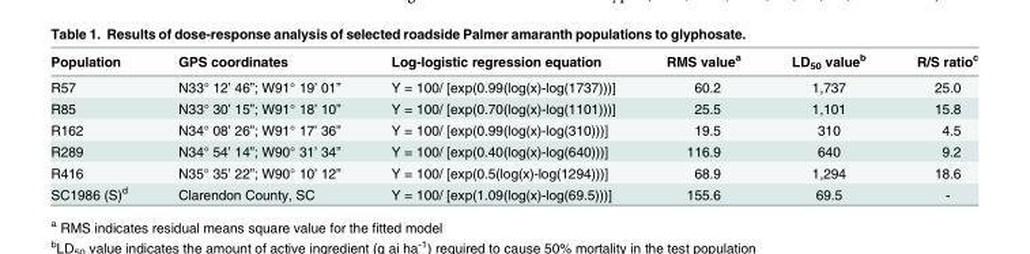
<table><thead><tr><td>Population</td><td>GPS coordinates</td><td>Log-logistic regression equation</td><td>RMS value<sup>a</sup></td><td>LD<sub>50</sub> value<sup>b</sup></td><td>R/S ratio<sup>c</sup></td></tr></thead><tbody><tr><td>R57</td><td>N33° 12’ 46”; W91° 19’ 01”</td><td>Y = 100/ [exp(0.99(log(x)-log(1737)))]</td><td>60.2</td><td>1,737</td><td>25.0</td></tr><tr><td>R85</td><td>N33° 30’ 15”; W91° 18’ 10”</td><td>Y = 100/ [exp(0.70(log(x)-log(1101)))]</td><td>25.5</td><td>1,101</td><td>15.8</td></tr><tr><td>R162</td><td>N34° 08’ 26”; W91° 17’ 36”</td><td>Y = 100/ [exp(0.99(log(x)-log(310)))]</td><td>19.5</td><td>310</td><td>4.5</td></tr><tr><td>R289</td><td>N34° 54’ 14”; W90° 31’ 34”</td><td>Y = 100/ [exp(0.40(log(x)-log(640)))]</td><td>116.9</td><td>640</td><td>9.2</td></tr><tr><td>R416</td><td>N35° 35’ 22”; W90° 10’ 12”</td><td>Y = 100/ [exp(0.5(log(x)-log(1294)))]</td><td>68.9</td><td>1,294</td><td>18.6</td></tr><tr><td>SC1986 (S)<sup>d</sup></td><td>Clarendon County, SC</td><td>Y = 100/ [exp(1.09(log(x)-log(69.5)))]</td><td>155.6</td><td>69.5</td><td>-</td></tr></tbody></table>